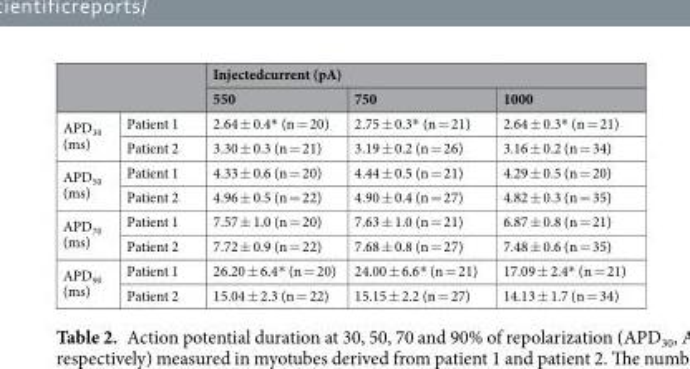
<table><thead><tr><td rowspan="2"></td><td rowspan="2"></td><td colspan="3">Injectedcurrent (pA)</td></tr><tr><td>550</td><td>750</td><td>1000</td></tr></thead><tbody><tr><td rowspan="2">APD<sub>30</sub> (ms)</td><td>Patient 1</td><td>2.64 ± 0.4* (n = 20)</td><td>2.75 ± 0.3* (n = 21)</td><td>2.64 ± 0.3* (n = 21)</td></tr><tr><td>Patient 2</td><td>3.30 ± 0.3 (n = 21)</td><td>3.19 ± 0.2 (n = 26)</td><td>3.16 ± 0.2 (n = 34)</td></tr><tr><td rowspan="2">APD<sub>50</sub> (ms)</td><td>Patient 1</td><td>4.33 ± 0.6 (n = 20)</td><td>4.44 ± 0.5 (n = 21)</td><td>4.29 ± 0.5 (n = 20)</td></tr><tr><td>Patient 2</td><td>4.96 ± 0.5 (n = 22)</td><td>4.90 ± 0.4 (n = 27)</td><td>4.82 ± 0.3 (n = 35)</td></tr><tr><td rowspan="2">APD<sub>70</sub> (ms)</td><td>Patient 1</td><td>7.57 ± 1.0 (n = 20)</td><td>7.63 ± 1.0 (n = 21)</td><td>6.87 ± 0.8 (n = 21)</td></tr><tr><td>Patient 2</td><td>7.72 ± 0.9 (n = 22)</td><td>7.68 ± 0.8 (n = 27)</td><td>7.48 ± 0.6 (n = 35)</td></tr><tr><td rowspan="2">APD<sub>90</sub> (ms)</td><td>Patient 1</td><td>26.20 ± 6.4* (n = 20)</td><td>24.00 ± 6.6* (n = 21)</td><td>17.09 ± 2.4* (n = 21)</td></tr><tr><td>Patient 2</td><td>15.04 ± 2.3 (n = 22)</td><td>15.15 ± 2.2 (n = 27)</td><td>14.13 ± 1.7 (n = 34)</td></tr></tbody></table>